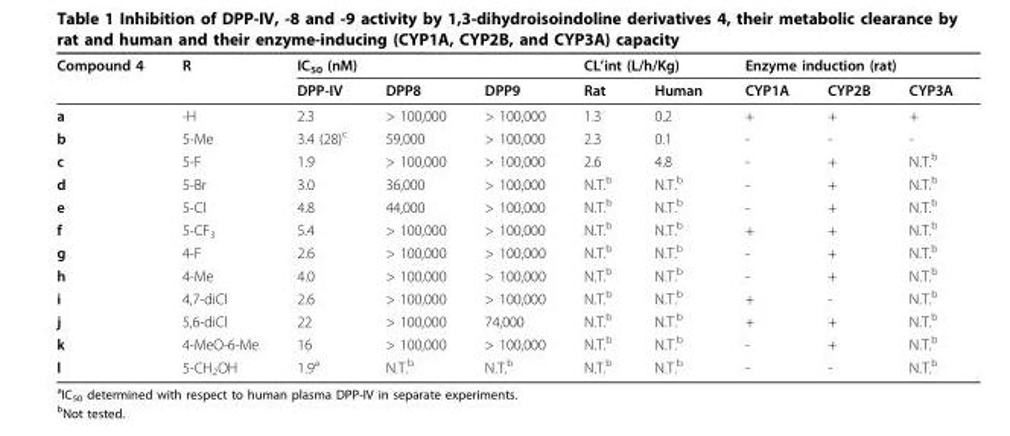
<table><thead><tr><td rowspan="2">Compound 4</td><td rowspan="2">R</td><td colspan="3">IC<sub>50</sub> (nM)</td><td colspan="2">CL’int (L/h/Kg)</td><td colspan="3">Enzyme induction (rat)</td></tr><tr><td>DPP-IV</td><td>DPP8</td><td>DPP9</td><td>Rat</td><td>Human</td><td>CYP1A</td><td>CYP2B</td><td>CYP3A</td></tr></thead><tbody><tr><td>a</td><td>-H</td><td>2.3</td><td>&gt; 100,000</td><td>&gt; 100,000</td><td>1.3</td><td>0.2</td><td>+</td><td>+</td><td>+</td></tr><tr><td>b</td><td>5-Me</td><td>3.4 (28)<sup>c</sup></td><td>59,000</td><td>&gt; 100,000</td><td>2.3</td><td>0.1</td><td>-</td><td>-</td><td>-</td></tr><tr><td>c</td><td>5-F</td><td>1.9</td><td>&gt; 100,000</td><td>&gt; 100,000</td><td>2.6</td><td>4.8</td><td>-</td><td>+</td><td>N.T.<sup>b</sup></td></tr><tr><td>d</td><td>5-Br</td><td>3.0</td><td>36,000</td><td>&gt; 100,000</td><td>N.T.<sup>b</sup></td><td>N.T.<sup>b</sup></td><td>-</td><td>+</td><td>N.T.<sup>b</sup></td></tr><tr><td>e</td><td>5-Cl</td><td>4.8</td><td>44,000</td><td>&gt; 100,000</td><td>N.T.<sup>b</sup></td><td>N.T.<sup>b</sup></td><td>-</td><td>+</td><td>N.T.<sup>b</sup></td></tr><tr><td>f</td><td>5-CF<sub>3</sub></td><td>5.4</td><td>&gt; 100,000</td><td>&gt; 100,000</td><td>N.T.<sup>b</sup></td><td>N.T.<sup>b</sup></td><td>+</td><td>+</td><td>N.T.<sup>b</sup></td></tr><tr><td>g</td><td>4-F</td><td>2.6</td><td>&gt; 100,000</td><td>&gt; 100,000</td><td>N.T.<sup>b</sup></td><td>N.T.<sup>b</sup></td><td>-</td><td>+</td><td>N.T.<sup>b</sup></td></tr><tr><td>h</td><td>4-Me</td><td>4.0</td><td>&gt; 100,000</td><td>&gt; 100,000</td><td>N.T.<sup>b</sup></td><td>N.T.<sup>b</sup></td><td>-</td><td>+</td><td>N.T.<sup>b</sup></td></tr><tr><td>i</td><td>4,7-diCl</td><td>2.6</td><td>&gt; 100,000</td><td>&gt; 100,000</td><td>N.T.<sup>b</sup></td><td>N.T.<sup>b</sup></td><td>+</td><td>-</td><td>N.T.<sup>b</sup></td></tr><tr><td>j</td><td>5,6-diCl</td><td>22</td><td>&gt; 100,000</td><td>74,000</td><td>N.T.<sup>b</sup></td><td>N.T.<sup>b</sup></td><td>+</td><td>+</td><td>N.T.<sup>b</sup></td></tr><tr><td>k</td><td>4-MeO-6-Me</td><td>16</td><td>&gt; 100,000</td><td>&gt; 100,000</td><td>N.T.<sup>b</sup></td><td>N.T.<sup>b</sup></td><td>-</td><td>+</td><td>N.T.<sup>b</sup></td></tr><tr><td>l</td><td>5-CH<sub>2</sub>OH</td><td>1.9<sup>a</sup></td><td>N.T.<sup>b</sup></td><td>N.T.<sup>b</sup></td><td>N.T.<sup>b</sup></td><td>N.T.<sup>b</sup></td><td>-</td><td>-</td><td>N.T.<sup>b</sup></td></tr></tbody></table>